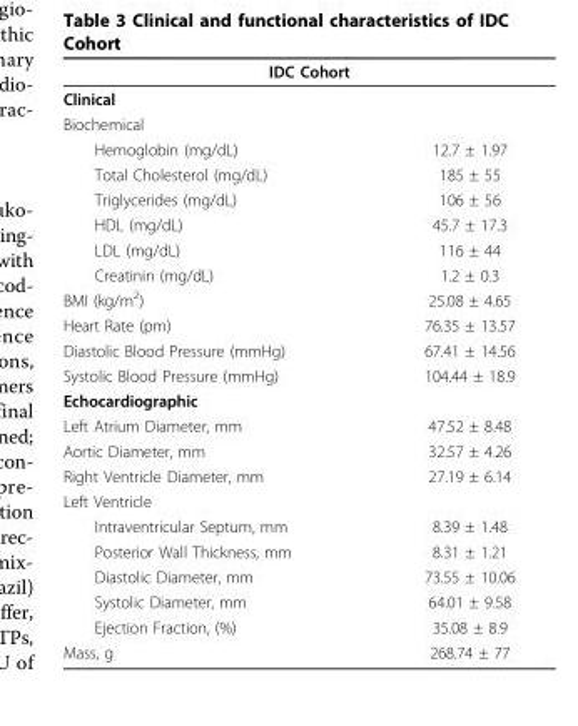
<table><thead><tr><td rowspan="2" colspan="2">IDC Cohort Clinical</td></tr><tr></tr><tr><td>Biochemical</td><td></td></tr></thead><tbody><tr><td>Hemoglobin (mg/dL)</td><td>12.7 ± 1.97</td></tr><tr><td>Total Cholesterol (mg/dL)</td><td>185 ± 55</td></tr><tr><td>Triglycerides (mg/dL)</td><td>106 ± 56</td></tr><tr><td>HDL (mg/dL)</td><td>45.7 ± 17.3</td></tr><tr><td>LDL (mg/dL)</td><td>116 ± 44</td></tr><tr><td>Creatinin (mg/dL)</td><td>1.2 ± 0.3</td></tr><tr><td>BMI (kg/m<sup>2</sup>)</td><td>25.08 ± 4.65</td></tr><tr><td>Heart Rate (pm)</td><td>76.35 ± 13.57</td></tr><tr><td>Diastolic Blood Pressure (mmHg)</td><td>67.41 ± 14.56</td></tr><tr><td>Systolic Blood Pressure (mmHg)</td><td>104.44 ± 18.9</td></tr><tr><td colspan="2">Echocardiographic</td></tr><tr><td>Left Atrium Diameter, mm</td><td>47.52 ± 8.48</td></tr><tr><td>Aortic Diameter, mm</td><td>32.57 ± 4.26</td></tr><tr><td>Right Ventricle Diameter, mm</td><td>27.19 ± 6.14</td></tr><tr><td colspan="2">Left Ventricle</td></tr><tr><td>Intraventricular Septum, mm</td><td>8.39 ± 1.48</td></tr><tr><td>Posterior Wall Thickness, mm</td><td>8.31 ± 1.21</td></tr><tr><td>Diastolic Diameter, mm</td><td>73.55 ± 10.06</td></tr><tr><td>Systolic Diameter, mm</td><td>64.01 ± 9.58</td></tr><tr><td>Ejection Fraction, (%)</td><td>35.08 ± 8.9</td></tr><tr><td>Mass, g</td><td>268.74 ± 77</td></tr></tbody></table>